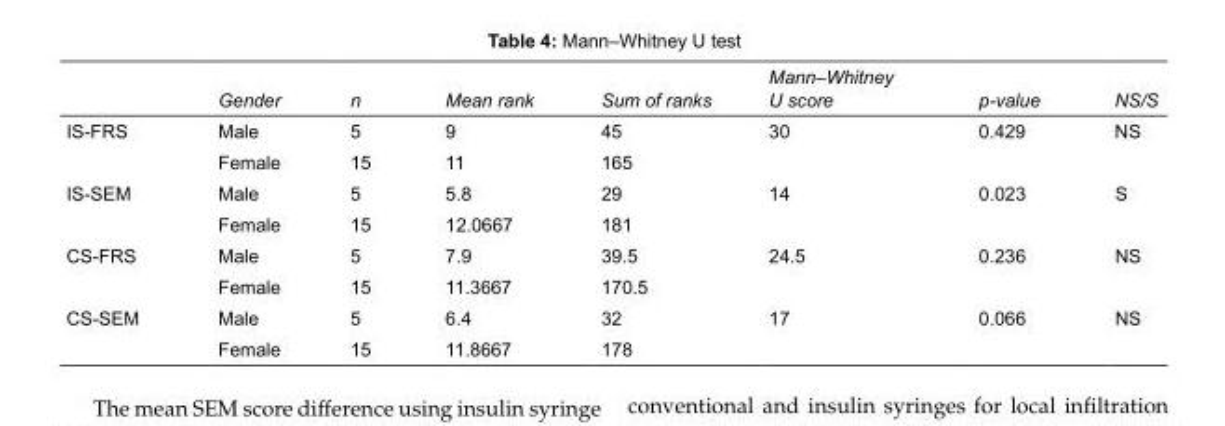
<table><thead><tr><td></td><td>Gender</td><td>n</td><td>Mean rank</td><td>Sum of ranks</td><td>Mann–Whitney U score</td><td>p-value</td><td>NS/S</td></tr></thead><tbody><tr><td rowspan="2">IS-FRS</td><td>Male</td><td>5</td><td>9</td><td>45</td><td>30</td><td>0.429</td><td>NS</td></tr><tr><td>Female</td><td>15</td><td>11</td><td>165</td><td></td><td></td><td></td></tr><tr><td rowspan="2">IS-SEM</td><td>Male</td><td>5</td><td>5.8</td><td>29</td><td>14</td><td>0.023</td><td>S</td></tr><tr><td>Female</td><td>15</td><td>12.0667</td><td>181</td><td></td><td></td><td></td></tr><tr><td rowspan="2">CS-FRS</td><td>Male</td><td>5</td><td>7.9</td><td>39.5</td><td>24.5</td><td>0.236</td><td>NS</td></tr><tr><td>Female</td><td>15</td><td>11.3667</td><td>170.5</td><td></td><td></td><td></td></tr><tr><td rowspan="2">CS-SEM</td><td>Male</td><td>5</td><td>6.4</td><td>32</td><td>17</td><td>0.066</td><td>NS</td></tr><tr><td>Female</td><td>15</td><td>11.8667</td><td>178</td><td></td><td></td><td></td></tr></tbody></table>